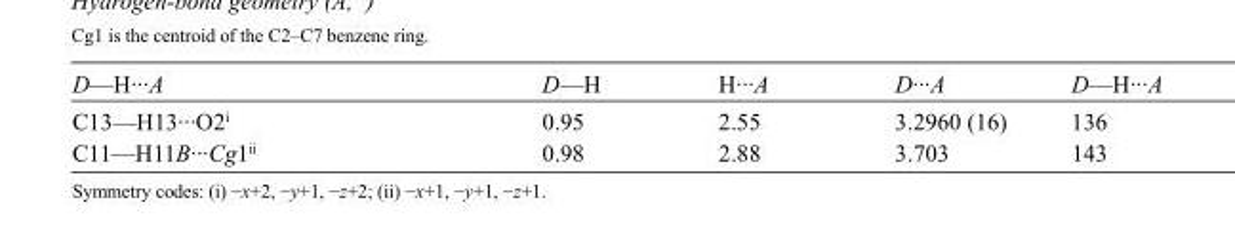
<table><tbody><tr><td>D—H···A</td><td>D—H</td><td>H···A</td><td>D···A</td><td>D—H···A</td></tr><tr><td>C13—H13···O2<sup>i</sup></td><td>0.95</td><td>2.55</td><td>3.2960 (16)</td><td>136</td></tr><tr><td>C11—H11B···Cg1<sup>ii</sup></td><td>0.98</td><td>2.88</td><td>3.703</td><td>143</td></tr></tbody></table>